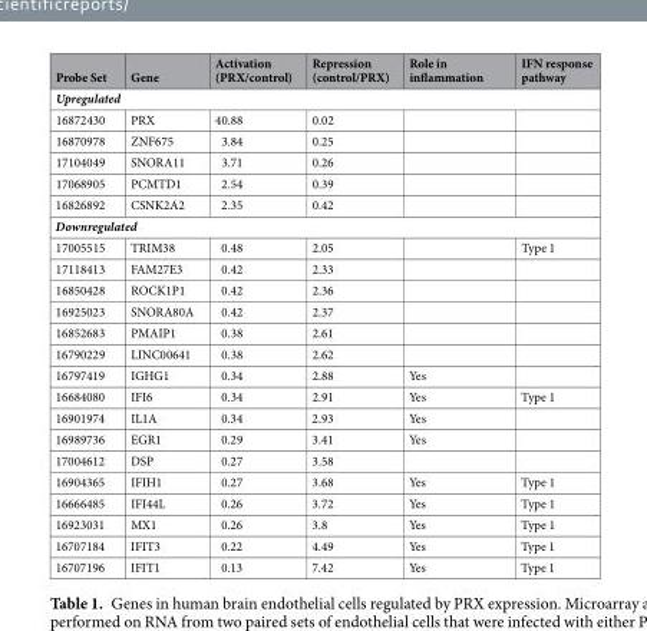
<table><thead><tr><td>Probe Set</td><td>Gene</td><td>Activation (PRX/control)</td><td>Repression (control/PRX)</td><td>Role in inflammation</td><td>IFN response pathway</td></tr></thead><tbody><tr><td colspan="6">Upregulated</td></tr><tr><td>16872430</td><td>PRX</td><td>40.88</td><td>0.02</td><td></td><td></td></tr><tr><td>16870978</td><td>ZNF675</td><td>3.84</td><td>0.25</td><td></td><td></td></tr><tr><td>17104049</td><td>SNORA11</td><td>3.71</td><td>0.26</td><td></td><td></td></tr><tr><td>17068905</td><td>PCMTD1</td><td>2.54</td><td>0.39</td><td></td><td></td></tr><tr><td>16826892</td><td>CSNK2A2</td><td>2.35</td><td>0.42</td><td></td><td></td></tr><tr><td colspan="6">Downregulated</td></tr><tr><td>17005515</td><td>TRIM38</td><td>0.48</td><td>2.05</td><td></td><td>Type 1</td></tr><tr><td>17118413</td><td>FAM27E3</td><td>0.42</td><td>2.33</td><td></td><td></td></tr><tr><td>16850428</td><td>ROCK1P1</td><td>0.42</td><td>2.36</td><td></td><td></td></tr><tr><td>16925023</td><td>SNORA80A</td><td>0.42</td><td>2.37</td><td></td><td></td></tr><tr><td>16852683</td><td>PMAIP1</td><td>0.38</td><td>2.61</td><td></td><td></td></tr><tr><td>16790229</td><td>LINC00641</td><td>0.38</td><td>2.62</td><td></td><td></td></tr><tr><td>16797419</td><td>IGHG1</td><td>0.34</td><td>2.88</td><td>Yes</td><td></td></tr><tr><td>16684080</td><td>IFI6</td><td>0.34</td><td>2.91</td><td>Yes</td><td>Type 1</td></tr><tr><td>16901974</td><td>IL1A</td><td>0.34</td><td>2.93</td><td>Yes</td><td></td></tr><tr><td>16989736</td><td>EGR1</td><td>0.29</td><td>3.41</td><td>Yes</td><td></td></tr><tr><td>17004612</td><td>DSP</td><td>0.27</td><td>3.58</td><td></td><td></td></tr><tr><td>16904365</td><td>IFIH1</td><td>0.27</td><td>3.68</td><td>Yes</td><td>Type 1</td></tr><tr><td>16666485</td><td>IFI44L</td><td>0.26</td><td>3.72</td><td>Yes</td><td>Type 1</td></tr><tr><td>16923031</td><td>MX1</td><td>0.26</td><td>3.8</td><td>Yes</td><td>Type 1</td></tr><tr><td>16707184</td><td>IFIT3</td><td>0.22</td><td>4.49</td><td>Yes</td><td>Type 1</td></tr><tr><td>16707196</td><td>IFIT1</td><td>0.13</td><td>7.42</td><td>Yes</td><td>Type 1</td></tr></tbody></table>